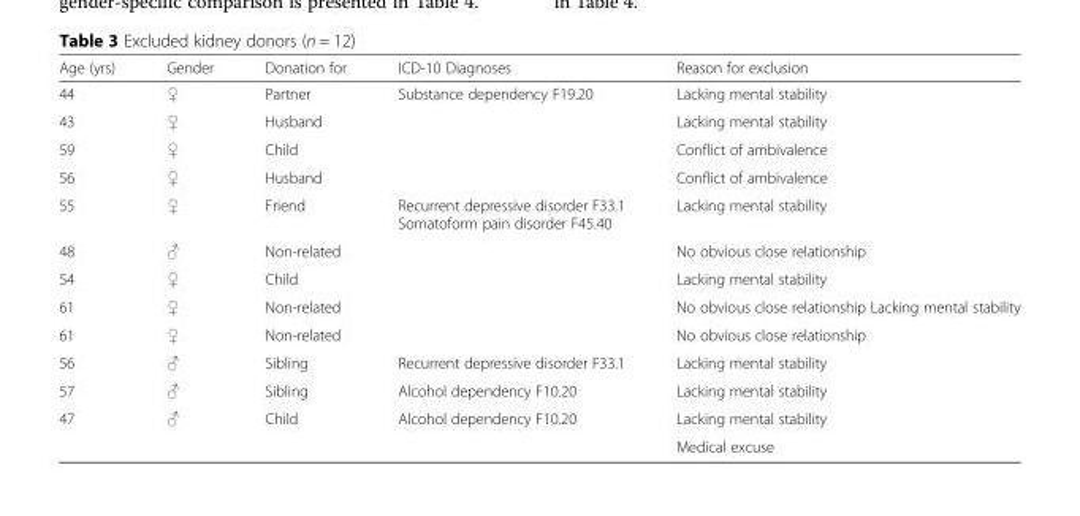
<table><thead><tr><td>Age (yrs)</td><td>Gender</td><td>Donation for</td><td>ICD-10 Diagnoses</td><td>Reason for exclusion</td></tr></thead><tbody><tr><td>44</td><td>♀</td><td>Partner</td><td>Substance dependency F19.20</td><td>Lacking mental stability</td></tr><tr><td>43</td><td>♀</td><td>Husband</td><td></td><td>Lacking mental stability</td></tr><tr><td>59</td><td>♀</td><td>Child</td><td></td><td>Conflict of ambivalence</td></tr><tr><td>56</td><td>♀</td><td>Husband</td><td></td><td>Conflict of ambivalence</td></tr><tr><td>55</td><td>♀</td><td>Friend</td><td>Recurrent depressive disorder F33.1 Somatoform pain disorder F45.40</td><td>Lacking mental stability</td></tr><tr><td>48</td><td>♂</td><td>Non-related</td><td></td><td>No obvious close relationship</td></tr><tr><td>54</td><td>♀</td><td>Child</td><td></td><td>Lacking mental stability</td></tr><tr><td>61</td><td>♀</td><td>Non-related</td><td></td><td>No obvious close relationship Lacking mental stability</td></tr><tr><td>61</td><td>♀</td><td>Non-related</td><td></td><td>No obvious close relationship</td></tr><tr><td>56</td><td>♂</td><td>Sibling</td><td>Recurrent depressive disorder F33.1</td><td>Lacking mental stability</td></tr><tr><td>57</td><td>♂</td><td>Sibling</td><td>Alcohol dependency F10.20</td><td>Lacking mental stability</td></tr><tr><td rowspan="2">47</td><td rowspan="2">♂</td><td rowspan="2">Child</td><td rowspan="2">Alcohol dependency F10.20</td><td>Lacking mental stability</td></tr><tr><td>Medical excuse</td></tr></tbody></table>